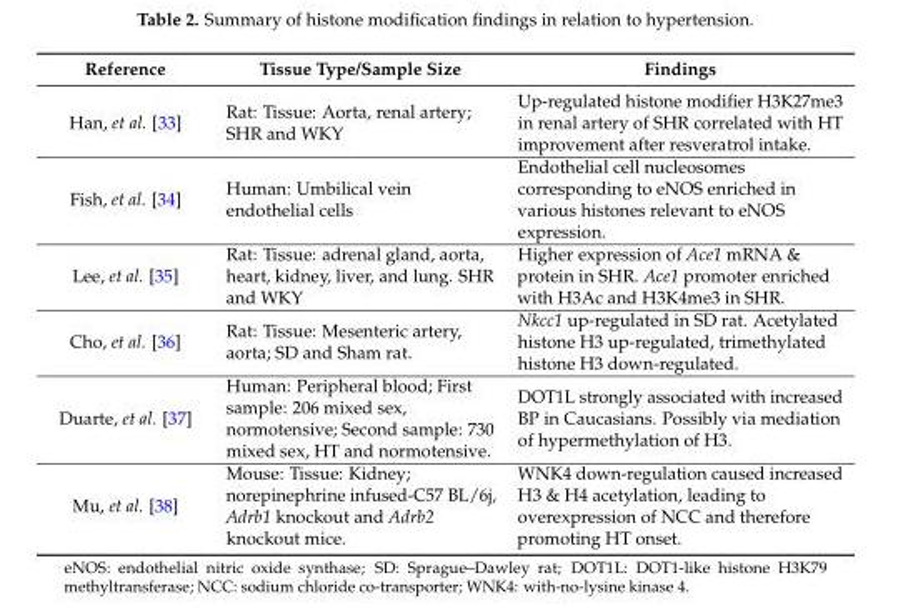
<table><thead><tr><td>Reference</td><td>Tissue Type/Sample Size</td><td>Findings</td></tr></thead><tbody><tr><td>Han, et al. [33]</td><td>Rat: Tissue: Aorta, renal artery; SHR and WKY</td><td>Up-regulated histone modifier H3K27me3 in renal artery of SHR correlated with HT improvement after resveratrol intake.</td></tr><tr><td>Fish, et al. [34]</td><td>Human: Umbilical vein endothelial cells</td><td>Endothelial cell nucleosomes corresponding to eNOS enriched in various histones relevant to eNOS expression.</td></tr><tr><td>Lee, et al. [35]</td><td>Rat: Tissue: adrenal gland, aorta, heart, kidney, liver, and lung. SHR and WKY</td><td>Higher expression of Ace1 mRNA &amp; protein in SHR. Ace1 promoter enriched with H3Ac and H3K4me3 in SHR.</td></tr><tr><td>Cho, et al. [36]</td><td>Rat: Tissue: Mesenteric artery, aorta; SD and Sham rat.</td><td>Nkcc1 up-regulated in SD rat. Acetylated histone H3 up-regulated, trimethylated histone H3 down-regulated.</td></tr><tr><td>Duarte, et al. [37]</td><td>Human: Peripheral blood; First sample: 206 mixed sex, normotensive; Second sample: 730 mixed sex, HT and normotensive.</td><td>DOT1L strongly associated with increased BP in Caucasians. Possibly via mediation of hypermethylation of H3.</td></tr><tr><td>Mu, et al. [38]</td><td>Mouse: Tissue: Kidney; norepinephrine infused-C57 BL/6j, Adrb1 knockout and Adrb2 knockout mice.</td><td>WNK4 down-regulation caused increased H3 &amp; H4 acetylation, leading to overexpression of NCC and therefore promoting HT onset.</td></tr></tbody></table>